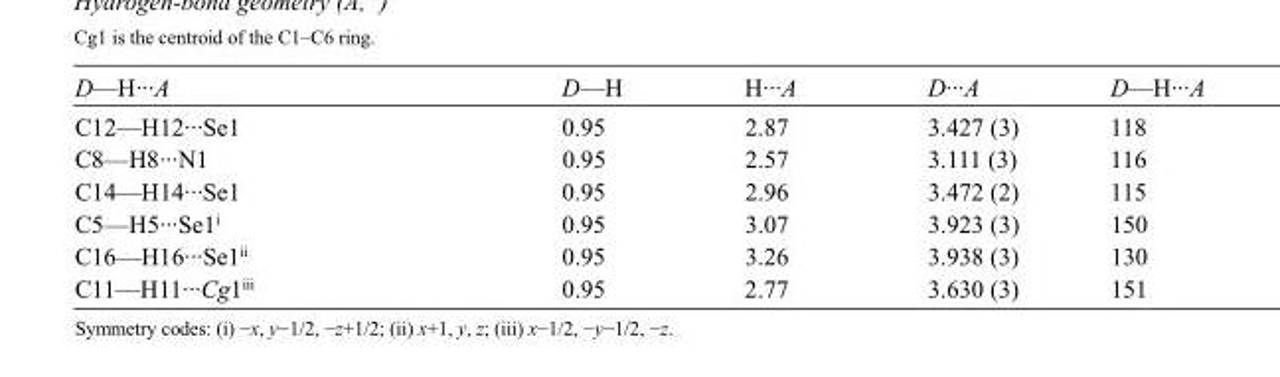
<table><tbody><tr><td>D—H···A</td><td>D—H</td><td>H···A</td><td>D···A</td><td>D—H···A</td></tr><tr><td>C12—H12···Se1</td><td>0.95</td><td>2.87</td><td>3.427 (3)</td><td>118</td></tr><tr><td>C8—H8···N1</td><td>0.95</td><td>2.57</td><td>3.111 (3)</td><td>116</td></tr><tr><td>C14—H14···Se1</td><td>0.95</td><td>2.96</td><td>3.472 (2)</td><td>115</td></tr><tr><td>C5—H5···Se1<sup>i</sup></td><td>0.95</td><td>3.07</td><td>3.923 (3)</td><td>150</td></tr><tr><td>C16—H16···Se1<sup>ii</sup></td><td>0.95</td><td>3.26</td><td>3.938 (3)</td><td>130</td></tr><tr><td>C11—H11···Cg1<sup>iii</sup></td><td>0.95</td><td>2.77</td><td>3.630 (3)</td><td>151</td></tr></tbody></table>